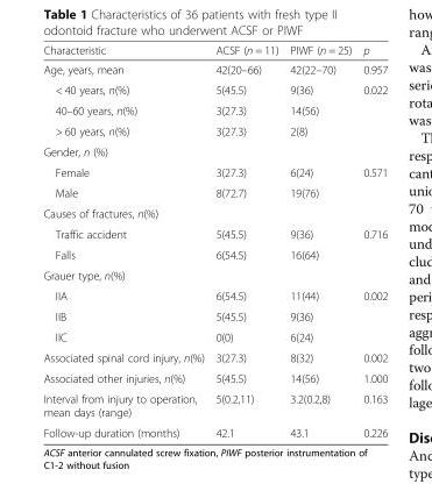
<table><thead><tr><td>Characteristic</td><td>ACSF (n = 11)</td><td>PIWF (n = 25)</td><td>p</td></tr></thead><tbody><tr><td>Age, years, mean</td><td>42(20–66)</td><td>42(22–70)</td><td>0.957</td></tr><tr><td>&lt; 40 years, n(%)</td><td>5(45.5)</td><td>9(36)</td><td>0.022</td></tr><tr><td>40–60 years, n(%)</td><td>3(27.3)</td><td>14(56)</td><td></td></tr><tr><td>&gt; 60 years, n(%)</td><td>3(27.3)</td><td>2(8)</td><td></td></tr><tr><td colspan="4">Gender, n (%)</td></tr><tr><td>Female</td><td>3(27.3)</td><td>6(24)</td><td>0.571</td></tr><tr><td>Male</td><td>8(72.7)</td><td>19(76)</td><td></td></tr><tr><td colspan="4">Causes of fractures, n(%)</td></tr><tr><td>Traffic accident</td><td>5(45.5)</td><td>9(36)</td><td>0.716</td></tr><tr><td>Falls</td><td>6(54.5)</td><td>16(64)</td><td></td></tr><tr><td colspan="4">Grauer type, n(%)</td></tr><tr><td>IIA</td><td>6(54.5)</td><td>11(44)</td><td>0.002</td></tr><tr><td>IIB</td><td>5(45.5)</td><td>9(36)</td><td></td></tr><tr><td>IIC</td><td>0(0)</td><td>6(24)</td><td></td></tr><tr><td>Associated spinal cord injury, n(%)</td><td>3(27.3)</td><td>8(32)</td><td>0.002</td></tr><tr><td>Associated other injuries, n(%)</td><td>5(45.5)</td><td>14(56)</td><td>1.000</td></tr><tr><td>Interval from injury to operation, mean days (range)</td><td>5(0.2,11)</td><td>3.2(0.2,8)</td><td>0.163</td></tr><tr><td>Follow-up duration (months)</td><td>42.1</td><td>43.1</td><td>0.226</td></tr></tbody></table>